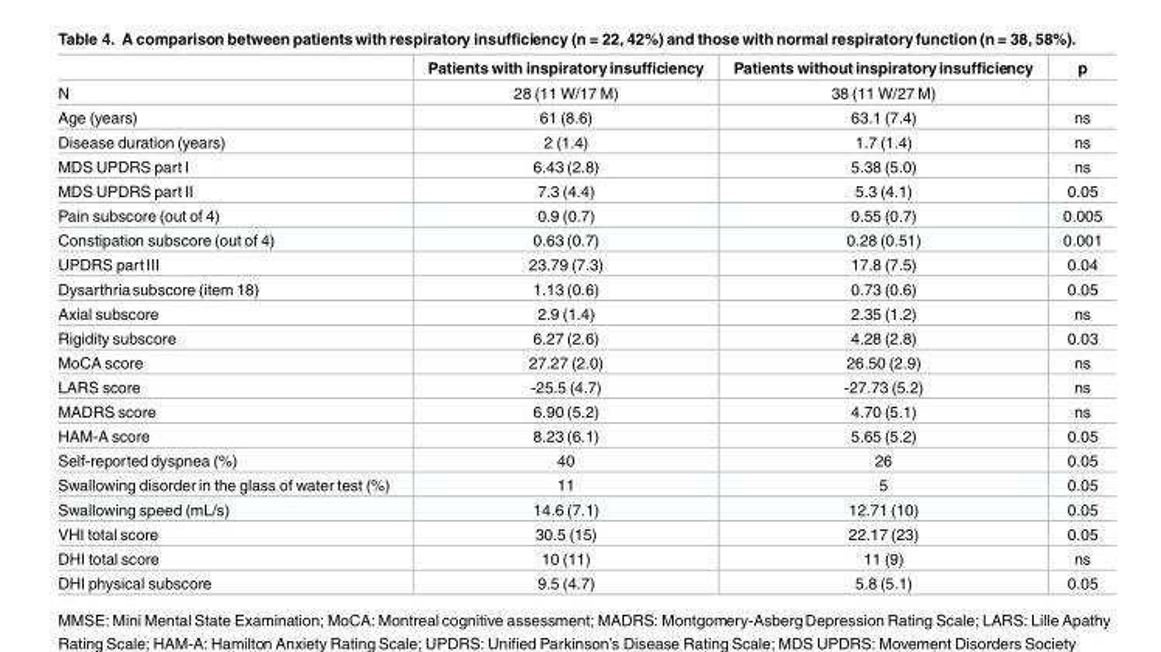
<table><thead><tr><td></td><td>Patients with inspiratoryinsufficiency</td><td>Patients without inspiratoryinsufficiency</td><td>p</td></tr></thead><tbody><tr><td>N</td><td>28 (11 W/17 M)</td><td>38 (11 W/27 M)</td><td></td></tr><tr><td>Age (years)</td><td>61 (8.6)</td><td>63.1 (7.4)</td><td>ns</td></tr><tr><td>Disease duration (years)</td><td>2 (1.4)</td><td>1.7 (1.4)</td><td>ns</td></tr><tr><td>MDS UPDRS part I</td><td>6.43 (2.8)</td><td>5.38 (5.0)</td><td>ns</td></tr><tr><td>MDS UPDRS part II</td><td>7.3 (4.4)</td><td>5.3 (4.1)</td><td>0.05</td></tr><tr><td>Pain subscore (out of 4)</td><td>0.9 (0.7)</td><td>0.55 (0.7)</td><td>0.005</td></tr><tr><td>Constipation subscore (out of 4)</td><td>0.63 (0.7)</td><td>0.28 (0.51)</td><td>0.001</td></tr><tr><td>UPDRS part III</td><td>23.79 (7.3)</td><td>17.8 (7.5)</td><td>0.04</td></tr><tr><td>Dysarthriasubscore (item 18)</td><td>1.13 (0.6)</td><td>0.73 (0.6)</td><td>0.05</td></tr><tr><td>Axial subscore</td><td>2.9 (1.4)</td><td>2.35 (1.2)</td><td>ns</td></tr><tr><td>Rigidity subscore</td><td>6.27 (2.6)</td><td>4.28 (2.8)</td><td>0.03</td></tr><tr><td>MoCA score</td><td>27.27 (2.0)</td><td>26.50 (2.9)</td><td>ns</td></tr><tr><td>LARS score</td><td>-25.5 (4.7)</td><td>-27.73 (5.2)</td><td>ns</td></tr><tr><td>MADRS score</td><td>6.90 (5.2)</td><td>4.70 (5.1)</td><td>ns</td></tr><tr><td>HAM-A score</td><td>8.23 (6.1)</td><td>5.65 (5.2)</td><td>0.05</td></tr><tr><td>Self-reported dyspnea (%)</td><td>40</td><td>26</td><td>0.05</td></tr><tr><td>Swallowing disorder in the glass of water test (%)</td><td>11</td><td>5</td><td>0.05</td></tr><tr><td>Swallowing speed (mL/s)</td><td>14.6 (7.1)</td><td>12.71 (10)</td><td>0.05</td></tr><tr><td>VHI total score</td><td>30.5 (15)</td><td>22.17 (23)</td><td>0.05</td></tr><tr><td>DHI total score</td><td>10 (11)</td><td>11 (9)</td><td>ns</td></tr><tr><td>DHI physical subscore</td><td>9.5 (4.7)</td><td>5.8 (5.1)</td><td>0.05</td></tr></tbody></table>